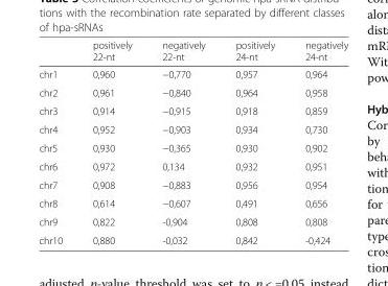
<table><thead><tr><td></td><td>positively 22-nt</td><td>negatively 22-nt</td><td>positively 24-nt</td><td>negatively 24-nt</td></tr></thead><tbody><tr><td>chr1</td><td>0,960</td><td>−0,770</td><td>0,957</td><td>0,964</td></tr><tr><td>chr2</td><td>0,961</td><td>−0,840</td><td>0,964</td><td>0,958</td></tr><tr><td>chr3</td><td>0,914</td><td>−0,915</td><td>0,918</td><td>0,859</td></tr><tr><td>chr4</td><td>0,952</td><td>−0,903</td><td>0,934</td><td>0,730</td></tr><tr><td>chr5</td><td>0,930</td><td>−0,365</td><td>0,930</td><td>0,902</td></tr><tr><td>chr6</td><td>0,972</td><td>0,134</td><td>0,932</td><td>0,951</td></tr><tr><td>chr7</td><td>0,908</td><td>−0,883</td><td>0,956</td><td>0,954</td></tr><tr><td>chr8</td><td>0,614</td><td>−0,607</td><td>0,491</td><td>0,656</td></tr><tr><td>chr9</td><td>0,822</td><td>-0,904</td><td>0,808</td><td>0,808</td></tr><tr><td>chr10</td><td>0,880</td><td>-0,032</td><td>0,842</td><td>-0,424</td></tr></tbody></table>